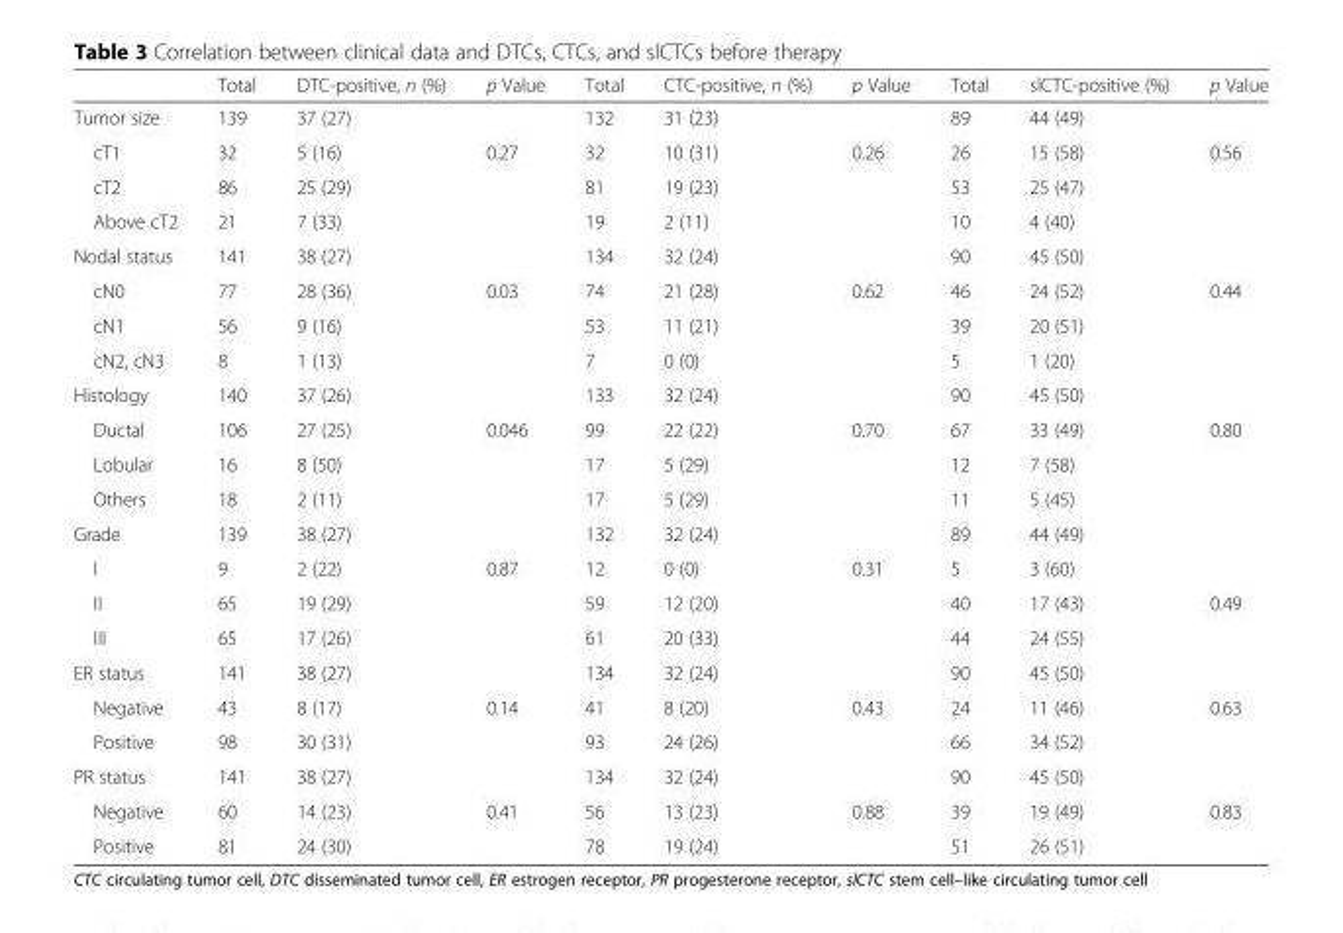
<table><thead><tr><td></td><td>Total</td><td>DTC-positive, n (%)</td><td>p Value</td><td>Total</td><td>CTC-positive, n (%)</td><td>p Value</td><td>Total</td><td>slCTC-positive (%)</td><td>p Value</td></tr></thead><tbody><tr><td>Tumor size</td><td>139</td><td>37 (27)</td><td></td><td>132</td><td>31 (23)</td><td></td><td>89</td><td>44 (49)</td><td></td></tr><tr><td>cT1</td><td>32</td><td>5 (16)</td><td>0.27</td><td>32</td><td>10 (31)</td><td>0.26</td><td>26</td><td>15 (58)</td><td>0.56</td></tr><tr><td>cT2</td><td>86</td><td>25 (29)</td><td></td><td>81</td><td>19 (23)</td><td></td><td>53</td><td>25 (47)</td><td></td></tr><tr><td>Above cT2</td><td>21</td><td>7 (33)</td><td></td><td>19</td><td>2 (11)</td><td></td><td>10</td><td>4 (40)</td><td></td></tr><tr><td>Nodal status</td><td>141</td><td>38 (27)</td><td></td><td>134</td><td>32 (24)</td><td></td><td>90</td><td>45 (50)</td><td></td></tr><tr><td>cN0</td><td>77</td><td>28 (36)</td><td>0.03</td><td>74</td><td>21 (28)</td><td>0.62</td><td>46</td><td>24 (52)</td><td>0.44</td></tr><tr><td>cN1</td><td>56</td><td>9 (16)</td><td></td><td>53</td><td>11 (21)</td><td></td><td>39</td><td>20 (51)</td><td></td></tr><tr><td>cN2, cN3</td><td>8</td><td>1 (13)</td><td></td><td>7</td><td>0 (0)</td><td></td><td>5</td><td>1 (20)</td><td></td></tr><tr><td>Histology</td><td>140</td><td>37 (26)</td><td></td><td>133</td><td>32 (24)</td><td></td><td>90</td><td>45 (50)</td><td></td></tr><tr><td>Ductal</td><td>106</td><td>27 (25)</td><td>0.046</td><td>99</td><td>22 (22)</td><td>0.70</td><td>67</td><td>33 (49)</td><td>0.80</td></tr><tr><td>Lobular</td><td>16</td><td>8 (50)</td><td></td><td>17</td><td>5 (29)</td><td></td><td>12</td><td>7 (58)</td><td></td></tr><tr><td>Others</td><td>18</td><td>2 (11)</td><td></td><td>17</td><td>5 (29)</td><td></td><td>11</td><td>5 (45)</td><td></td></tr><tr><td>Grade</td><td>139</td><td>38 (27)</td><td></td><td>132</td><td>32 (24)</td><td></td><td>89</td><td>44 (49)</td><td></td></tr><tr><td>I</td><td>9</td><td>2 (22)</td><td>0.87</td><td>12</td><td>0 (0)</td><td>0.31</td><td>5</td><td>3 (60)</td><td></td></tr><tr><td>II</td><td>65</td><td>19 (29)</td><td></td><td>59</td><td>12 (20)</td><td></td><td>40</td><td>17 (43)</td><td>0.49</td></tr><tr><td>III</td><td>65</td><td>17 (26)</td><td></td><td>61</td><td>20 (33)</td><td></td><td>44</td><td>24 (55)</td><td></td></tr><tr><td>ER status</td><td>141</td><td>38 (27)</td><td></td><td>134</td><td>32 (24)</td><td></td><td>90</td><td>45 (50)</td><td></td></tr><tr><td>Negative</td><td>43</td><td>8 (17)</td><td>0.14</td><td>41</td><td>8 (20)</td><td>0.43</td><td>24</td><td>11 (46)</td><td>0.63</td></tr><tr><td>Positive</td><td>98</td><td>30 (31)</td><td></td><td>93</td><td>24 (26)</td><td></td><td>66</td><td>34 (52)</td><td></td></tr><tr><td>PR status</td><td>141</td><td>38 (27)</td><td></td><td>134</td><td>32 (24)</td><td></td><td>90</td><td>45 (50)</td><td></td></tr><tr><td>Negative</td><td>60</td><td>14 (23)</td><td>0.41</td><td>56</td><td>13 (23)</td><td>0.88</td><td>39</td><td>19 (49)</td><td>0.83</td></tr><tr><td>Positive</td><td>81</td><td>24 (30)</td><td></td><td>78</td><td>19 (24)</td><td></td><td>51</td><td>26 (51)</td><td></td></tr></tbody></table>